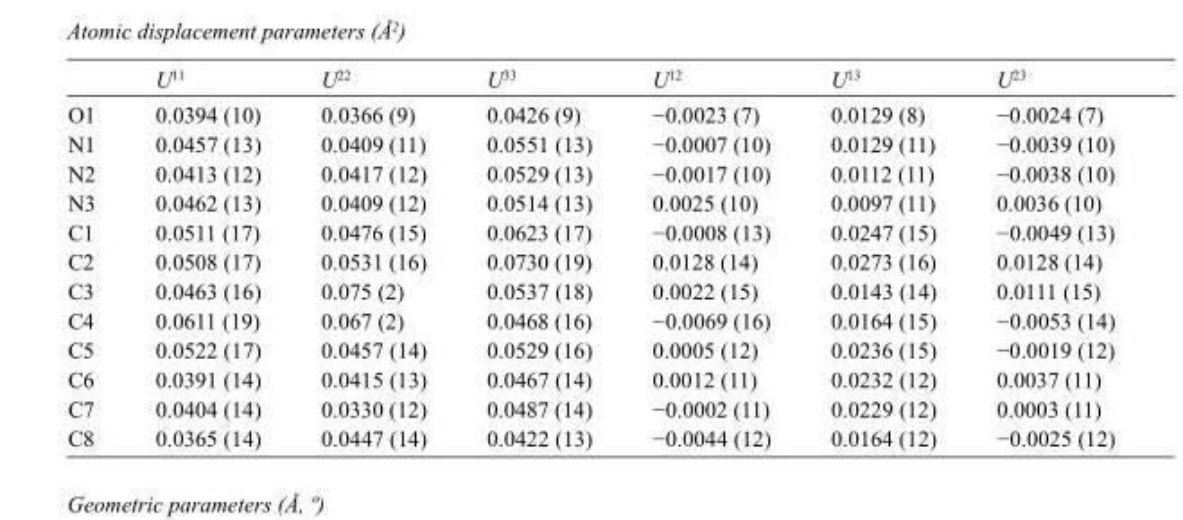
<table><thead><tr><td></td><td>U<sup>11</sup></td><td>U<sup>22</sup></td><td>U<sup>33</sup></td><td>U<sup>12</sup></td><td>U<sup>13</sup></td><td>U<sup>23</sup></td></tr></thead><tbody><tr><td>O1</td><td>0.0394 (10)</td><td>0.0366 (9)</td><td>0.0426 (9)</td><td>−0.0023 (7)</td><td>0.0129 (8)</td><td>−0.0024 (7)</td></tr><tr><td>N1</td><td>0.0457 (13)</td><td>0.0409 (11)</td><td>0.0551 (13)</td><td>−0.0007 (10)</td><td>0.0129 (11)</td><td>−0.0039 (10)</td></tr><tr><td>N2</td><td>0.0413 (12)</td><td>0.0417 (12)</td><td>0.0529 (13)</td><td>−0.0017 (10)</td><td>0.0112 (11)</td><td>−0.0038 (10)</td></tr><tr><td>N3</td><td>0.0462 (13)</td><td>0.0409 (12)</td><td>0.0514 (13)</td><td>0.0025 (10)</td><td>0.0097 (11)</td><td>0.0036 (10)</td></tr><tr><td>C1</td><td>0.0511 (17)</td><td>0.0476 (15)</td><td>0.0623 (17)</td><td>−0.0008 (13)</td><td>0.0247 (15)</td><td>−0.0049 (13)</td></tr><tr><td>C2</td><td>0.0508 (17)</td><td>0.0531 (16)</td><td>0.0730 (19)</td><td>0.0128 (14)</td><td>0.0273 (16)</td><td>0.0128 (14)</td></tr><tr><td>C3</td><td>0.0463 (16)</td><td>0.075 (2)</td><td>0.0537 (18)</td><td>0.0022 (15)</td><td>0.0143 (14)</td><td>0.0111 (15)</td></tr><tr><td>C4</td><td>0.0611 (19)</td><td>0.067 (2)</td><td>0.0468 (16)</td><td>−0.0069 (16)</td><td>0.0164 (15)</td><td>−0.0053 (14)</td></tr><tr><td>C5</td><td>0.0522 (17)</td><td>0.0457 (14)</td><td>0.0529 (16)</td><td>0.0005 (12)</td><td>0.0236 (15)</td><td>−0.0019 (12)</td></tr><tr><td>C6</td><td>0.0391 (14)</td><td>0.0415 (13)</td><td>0.0467 (14)</td><td>0.0012 (11)</td><td>0.0232 (12)</td><td>0.0037 (11)</td></tr><tr><td>C7</td><td>0.0404 (14)</td><td>0.0330 (12)</td><td>0.0487 (14)</td><td>−0.0002 (11)</td><td>0.0229 (12)</td><td>0.0003 (11)</td></tr><tr><td>C8</td><td>0.0365 (14)</td><td>0.0447 (14)</td><td>0.0422 (13)</td><td>−0.0044 (12)</td><td>0.0164 (12)</td><td>−0.0025 (12)</td></tr></tbody></table>